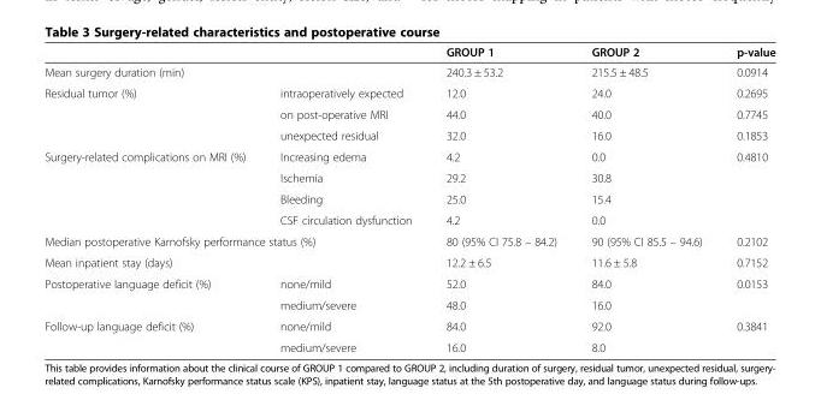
<table><thead><tr><td></td><td></td><td>GROUP 1</td><td>GROUP 2</td><td>p-value</td></tr></thead><tbody><tr><td colspan="2">Mean surgery duration (min)</td><td>240.3 ± 53.2</td><td>215.5 ± 48.5</td><td>0.0914</td></tr><tr><td rowspan="3">Residual tumor (%)</td><td>intraoperatively expected</td><td>12.0</td><td>24.0</td><td>0.2695</td></tr><tr><td>on post-operative MRI</td><td>44.0</td><td>40.0</td><td>0.7745</td></tr><tr><td>unexpected residual</td><td>32.0</td><td>16.0</td><td>0.1853</td></tr><tr><td rowspan="4">Surgery-related complications on MRI (%)</td><td>Increasing edema</td><td>4.2</td><td>0.0</td><td rowspan="4">0.4810</td></tr><tr><td>Ischemia</td><td>29.2</td><td>30.8</td></tr><tr><td>Bleeding</td><td>25.0</td><td>15.4</td></tr><tr><td>CSF circulation dysfunction</td><td>4.2</td><td>0.0</td></tr><tr><td colspan="2">Median postoperative Karnofsky performance status (%)</td><td>80 (95% CI 75.8 – 84.2)</td><td>90 (95% CI 85.5 – 94.6)</td><td>0.2102</td></tr><tr><td colspan="2">Mean inpatient stay (days)</td><td>12.2 ± 6.5</td><td>11.6 ± 5.8</td><td>0.7152</td></tr><tr><td rowspan="2">Postoperative language deficit (%)</td><td>none/mild</td><td>52.0</td><td>84.0</td><td rowspan="2">0.0153</td></tr><tr><td>medium/severe</td><td>48.0</td><td>16.0</td></tr><tr><td rowspan="2">Follow-up language deficit (%)</td><td>none/mild</td><td>84.0</td><td>92.0</td><td rowspan="2">0.3841</td></tr><tr><td>medium/severe</td><td>16.0</td><td>8.0</td></tr></tbody></table>